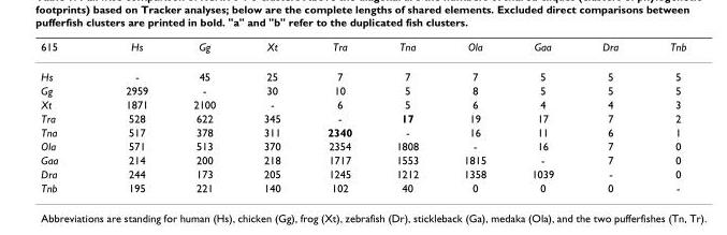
<table><thead><tr><td>615</td><td>Hs</td><td>Gg</td><td>Xt</td><td>Tra</td><td>Tna</td><td>Ola</td><td>Gaa</td><td>Dra</td><td>Tnb</td></tr></thead><tbody><tr><td>Hs</td><td>-</td><td>45</td><td>25</td><td>7</td><td>7</td><td>7</td><td>5</td><td>5</td><td>5</td></tr><tr><td>Gg</td><td>2959</td><td>-</td><td>30</td><td>10</td><td>5</td><td>8</td><td>5</td><td>5</td><td>5</td></tr><tr><td>Xt</td><td>1871</td><td>2100</td><td>-</td><td>6</td><td>5</td><td>6</td><td>4</td><td>4</td><td>3</td></tr><tr><td>Tra</td><td>528</td><td>622</td><td>345</td><td>-</td><td>17</td><td>19</td><td>17</td><td>7</td><td>2</td></tr><tr><td>Tna</td><td>517</td><td>378</td><td>311</td><td>2340</td><td>-</td><td>16</td><td>11</td><td>6</td><td>1</td></tr><tr><td>Ola</td><td>571</td><td>513</td><td>370</td><td>2354</td><td>1808</td><td>-</td><td>16</td><td>7</td><td>0</td></tr><tr><td>Gaa</td><td>214</td><td>200</td><td>218</td><td>1717</td><td>1553</td><td>1815</td><td>-</td><td>7</td><td>0</td></tr><tr><td>Dra</td><td>244</td><td>173</td><td>205</td><td>1245</td><td>1212</td><td>1358</td><td>1039</td><td>-</td><td>0</td></tr><tr><td>Tnb</td><td>195</td><td>221</td><td>140</td><td>102</td><td>40</td><td>0</td><td>0</td><td>0</td><td>-</td></tr></tbody></table>